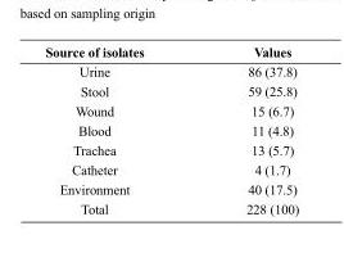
<table><thead><tr><td>Source of isolates</td><td>Values</td></tr></thead><tbody><tr><td>Urine</td><td>86 (37.8)</td></tr><tr><td>Stool</td><td>59 (25.8)</td></tr><tr><td>Wound</td><td>15 (6.7)</td></tr><tr><td>Blood</td><td>11 (4.8)</td></tr><tr><td>Trachea</td><td>13 (5.7)</td></tr><tr><td>Catheter</td><td>4 (1.7)</td></tr><tr><td>Environment</td><td>40 (17.5)</td></tr><tr><td>Total</td><td>228 (100)</td></tr></tbody></table>